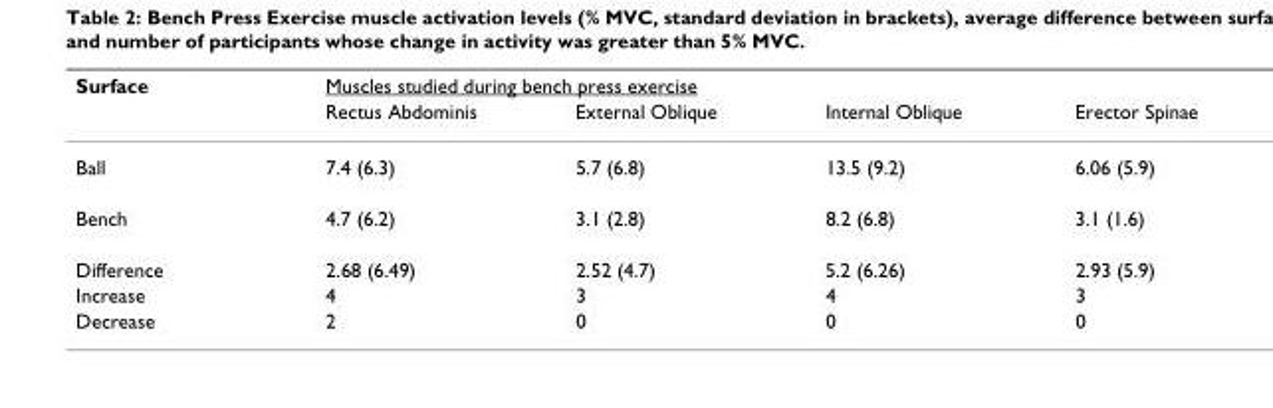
<table><thead><tr><td rowspan="2">Surface</td><td colspan="4">Muscles studied during bench press exercise</td></tr><tr><td>Rectus Abdominis</td><td>External Oblique</td><td>Internal Oblique</td><td>Erector Spinae</td></tr></thead><tbody><tr><td>Ball</td><td>7.4 (6.3)</td><td>5.7 (6.8)</td><td>13.5 (9.2)</td><td>6.06 (5.9)</td></tr><tr><td>Bench</td><td>4.7 (6.2)</td><td>3.1 (2.8)</td><td>8.2 (6.8)</td><td>3.1 (1.6)</td></tr><tr><td>Difference</td><td>2.68 (6.49)</td><td>2.52 (4.7)</td><td>5.2 (6.26)</td><td>2.93 (5.9)</td></tr><tr><td>Increase</td><td>4</td><td>3</td><td>4</td><td>3</td></tr><tr><td>Decrease</td><td>2</td><td>0</td><td>0</td><td>0</td></tr></tbody></table>